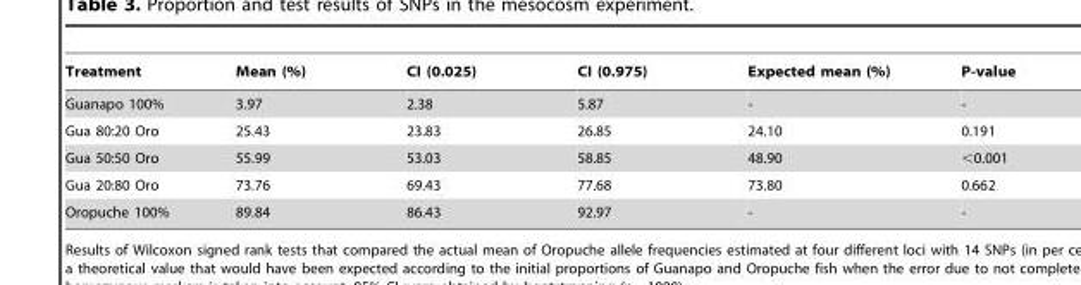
<table><thead><tr><td>Treatment</td><td>Mean (%)</td><td>CI (0.025)</td><td>CI (0.975)</td><td>Expected mean (%)</td><td>P-value</td></tr></thead><tbody><tr><td>Guanapo 100%</td><td>3.97</td><td>2.38</td><td>5.87</td><td>-</td><td>-</td></tr><tr><td>Gua 80:20 Oro</td><td>25.43</td><td>23.83</td><td>26.85</td><td>24.10</td><td>0.191</td></tr><tr><td>Gua 50:50 Oro</td><td>55.99</td><td>53.03</td><td>58.85</td><td>48.90</td><td>&lt;0.001</td></tr><tr><td>Gua 20:80 Oro</td><td>73.76</td><td>69.43</td><td>77.68</td><td>73.80</td><td>0.662</td></tr><tr><td>Oropuche 100%</td><td>89.84</td><td>86.43</td><td>92.97</td><td>-</td><td>-</td></tr></tbody></table>